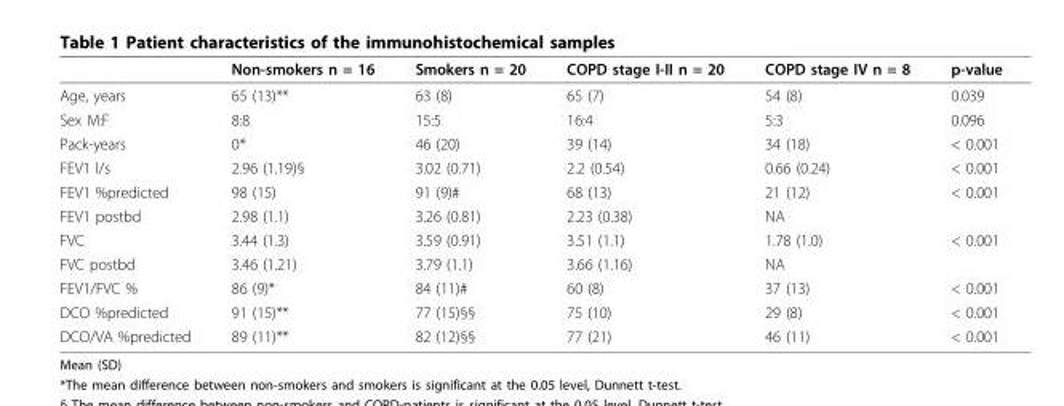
<table><thead><tr><td></td><td>Non-smokers n = 16</td><td>Smokers n = 20</td><td>COPD stage I-II n = 20</td><td>COPD stage IV n = 8</td><td>p-value</td></tr></thead><tbody><tr><td>Age, years</td><td>65 (13)**</td><td>63 (8)</td><td>65 (7)</td><td>54 (8)</td><td>0.039</td></tr><tr><td>Sex M:F</td><td>8:8</td><td>15:5</td><td>16:4</td><td>5:3</td><td>0.096</td></tr><tr><td>Pack-years</td><td>0*</td><td>46 (20)</td><td>39 (14)</td><td>34 (18)</td><td>&lt; 0.001</td></tr><tr><td>FEV1 l/s</td><td>2.96 (1.19)§</td><td>3.02 (0.71)</td><td>2.2 (0.54)</td><td>0.66 (0.24)</td><td>&lt; 0.001</td></tr><tr><td>FEV1 %predicted</td><td>98 (15)</td><td>91 (9)#</td><td>68 (13)</td><td>21 (12)</td><td>&lt; 0.001</td></tr><tr><td>FEV1 postbd</td><td>2.98 (1.1)</td><td>3.26 (0.81)</td><td>2.23 (0.38)</td><td>NA</td><td></td></tr><tr><td>FVC</td><td>3.44 (1.3)</td><td>3.59 (0.91)</td><td>3.51 (1.1)</td><td>1.78 (1.0)</td><td>&lt; 0.001</td></tr><tr><td>FVC postbd</td><td>3.46 (1.21)</td><td>3.79 (1.1)</td><td>3.66 (1.16)</td><td>NA</td><td></td></tr><tr><td>FEV1/FVC %</td><td>86 (9)*</td><td>84 (11)#</td><td>60 (8)</td><td>37 (13)</td><td>&lt; 0.001</td></tr><tr><td>DCO %predicted</td><td>91 (15)**</td><td>77 (15)§§</td><td>75 (10)</td><td>29 (8)</td><td>&lt; 0.001</td></tr><tr><td>DCO/VA %predicted</td><td>89 (11)**</td><td>82 (12)§§</td><td>77 (21)</td><td>46 (11)</td><td>&lt; 0.001</td></tr></tbody></table>